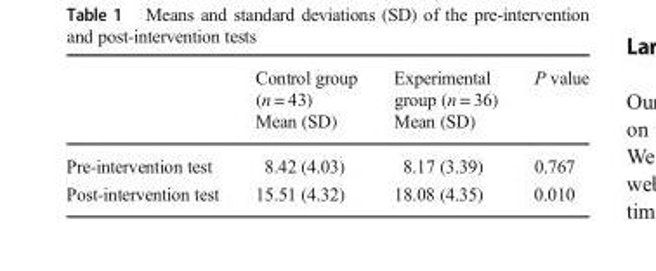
<table><thead><tr><td rowspan="2"></td><td rowspan="2">Control group (n = 43) Mean (SD)</td><td rowspan="2">Experimental group (n = 36) Mean (SD)</td><td rowspan="2">P value</td></tr><tr></tr></thead><tbody><tr><td>Pre-intervention test</td><td>8.42 (4.03)</td><td>8.17 (3.39)</td><td>0.767</td></tr><tr><td>Post-intervention test</td><td>15.51 (4.32)</td><td>18.08 (4.35)</td><td>0.010</td></tr></tbody></table>